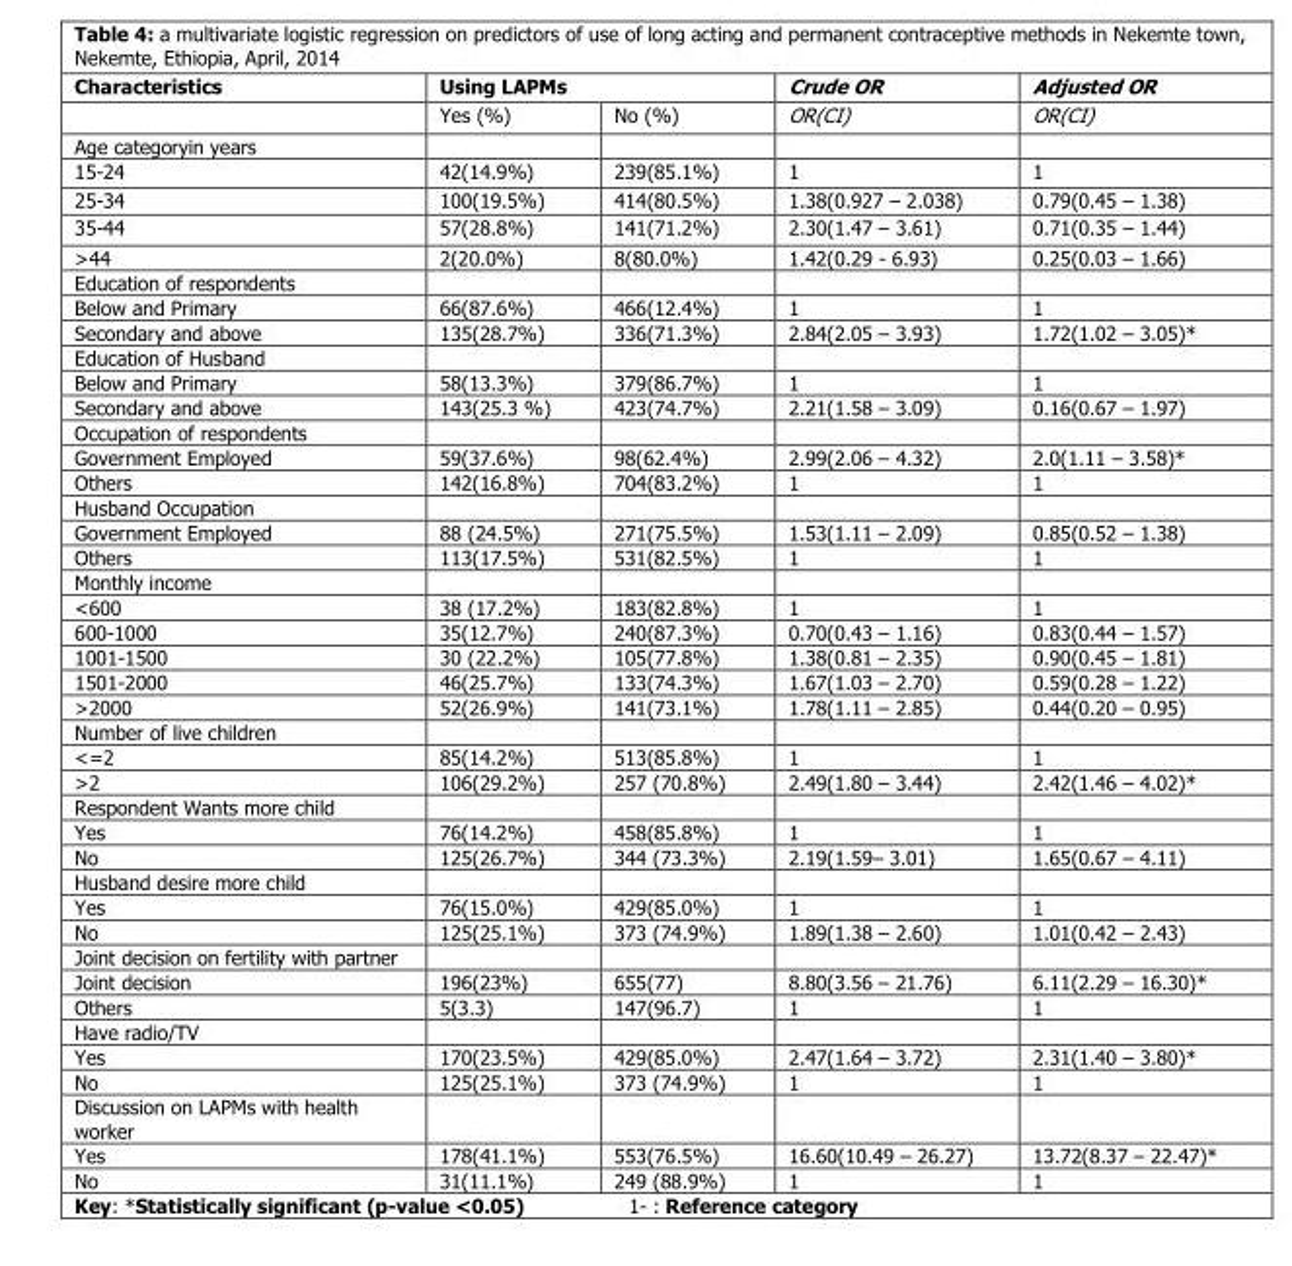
<table><thead><tr><td rowspan="2">Characteristics</td><td colspan="2">Using LAPMs</td><td rowspan="2">Crude OR OR(CI)</td><td rowspan="2">Adjusted OR OR(CI)</td></tr><tr><td>Yes (%)</td><td>No (%)</td></tr></thead><tbody><tr><td colspan="5">Age categoryin years</td></tr><tr><td>15-24</td><td>42(14.9%)</td><td>239(85.1%)</td><td>1</td><td>1</td></tr><tr><td>25-34</td><td>100(19.5%)</td><td>414(80.5%)</td><td>1.38(0.927 – 2.038)</td><td>0.79(0.45 – 1.38)</td></tr><tr><td>35-44</td><td>57(28.8%)</td><td>141(71.2%)</td><td>2.30(1.47 – 3.61)</td><td>0.71(0.35 – 1.44)</td></tr><tr><td>&gt;44</td><td>2(20.0%)</td><td>8(80.0%)</td><td>1.42(0.29 - 6.93)</td><td>0.25(0.03 – 1.66)</td></tr><tr><td colspan="5">Education of respondents</td></tr><tr><td>Below and Primary</td><td>66(87.6%)</td><td>466(12.4%)</td><td>1</td><td>1</td></tr><tr><td>Secondary and above</td><td>135(28.7%)</td><td>336(71.3%)</td><td>2.84(2.05 – 3.93)</td><td>1.72(1.02 – 3.05)*</td></tr><tr><td colspan="5">Education of Husband</td></tr><tr><td>Below and Primary</td><td>58(13.3%)</td><td>379(86.7%)</td><td>1</td><td>1</td></tr><tr><td>Secondary and above</td><td>143(25.3 %)</td><td>423(74.7%)</td><td>2.21(1.58 – 3.09)</td><td>0.16(0.67 – 1.97)</td></tr><tr><td colspan="5">Occupation of respondents</td></tr><tr><td>Government Employed</td><td>59(37.6%)</td><td>98(62.4%)</td><td>2.99(2.06 – 4.32)</td><td>2.0(1.11 – 3.58)*</td></tr><tr><td>Others</td><td>142(16.8%)</td><td>704(83.2%)</td><td>1</td><td>1</td></tr><tr><td colspan="5">Husband Occupation</td></tr><tr><td>Government Employed</td><td>88 (24.5%)</td><td>271(75.5%)</td><td>1.53(1.11 – 2.09)</td><td>0.85(0.52 – 1.38)</td></tr><tr><td>Others</td><td>113(17.5%)</td><td>531(82.5%)</td><td>1</td><td>1</td></tr><tr><td colspan="5">Monthly income</td></tr><tr><td>&lt;600</td><td>38 (17.2%)</td><td>183(82.8%)</td><td>1</td><td>1</td></tr><tr><td>600-1000</td><td>35(12.7%)</td><td>240(87.3%)</td><td>0.70(0.43 – 1.16)</td><td>0.83(0.44 – 1.57)</td></tr><tr><td>1001-1500</td><td>30 (22.2%)</td><td>105(77.8%)</td><td>1.38(0.81 – 2.35)</td><td>0.90(0.45 – 1.81)</td></tr><tr><td>1501-2000</td><td>46(25.7%)</td><td>133(74.3%)</td><td>1.67(1.03 – 2.70)</td><td>0.59(0.28 – 1.22)</td></tr><tr><td>&gt;2000</td><td>52(26.9%)</td><td>141(73.1%)</td><td>1.78(1.11 – 2.85)</td><td>0.44(0.20 – 0.95)</td></tr><tr><td colspan="5">Number of live children</td></tr><tr><td>&lt;=2</td><td>85(14.2%)</td><td>513(85.8%)</td><td>1</td><td>1</td></tr><tr><td>&gt;2</td><td>106(29.2%)</td><td>257 (70.8%)</td><td>2.49(1.80 – 3.44)</td><td>2.42(1.46 – 4.02)*</td></tr><tr><td colspan="5">Respondent Wants more child</td></tr><tr><td>Yes</td><td>76(14.2%)</td><td>458(85.8%)</td><td>1</td><td>1</td></tr><tr><td>No</td><td>125(26.7%)</td><td>344 (73.3%)</td><td>2.19(1.59– 3.01)</td><td>1.65(0.67 – 4.11)</td></tr><tr><td colspan="5">Husband desire more child</td></tr><tr><td>Yes</td><td>76(15.0%)</td><td>429(85.0%)</td><td>1</td><td>1</td></tr><tr><td>No</td><td>125(25.1%)</td><td>373 (74.9%)</td><td>1.89(1.38 – 2.60)</td><td>1.01(0.42 – 2.43)</td></tr><tr><td colspan="5">Joint decision on fertility with partner</td></tr><tr><td>Joint decision</td><td>196(23%)</td><td>655(77)</td><td>8.80(3.56 – 21.76)</td><td>6.11(2.29 – 16.30)*</td></tr><tr><td>Others</td><td>5(3.3)</td><td>147(96.7)</td><td>1</td><td>1</td></tr><tr><td colspan="5">Have radio/TV</td></tr><tr><td>Yes</td><td>170(23.5%)</td><td>429(85.0%)</td><td>2.47(1.64 – 3.72)</td><td>2.31(1.40 – 3.80)*</td></tr><tr><td>No</td><td>125(25.1%)</td><td>373 (74.9%)</td><td>1</td><td>1</td></tr><tr><td colspan="5">Discussion on LAPMs with health worker</td></tr><tr><td>Yes</td><td>178(41.1%)</td><td>553(76.5%)</td><td>16.60(10.49 – 26.27)</td><td>13.72(8.37 – 22.47)*</td></tr><tr><td>No</td><td>31(11.1%)</td><td>249 (88.9%)</td><td>1</td><td>1</td></tr></tbody></table>